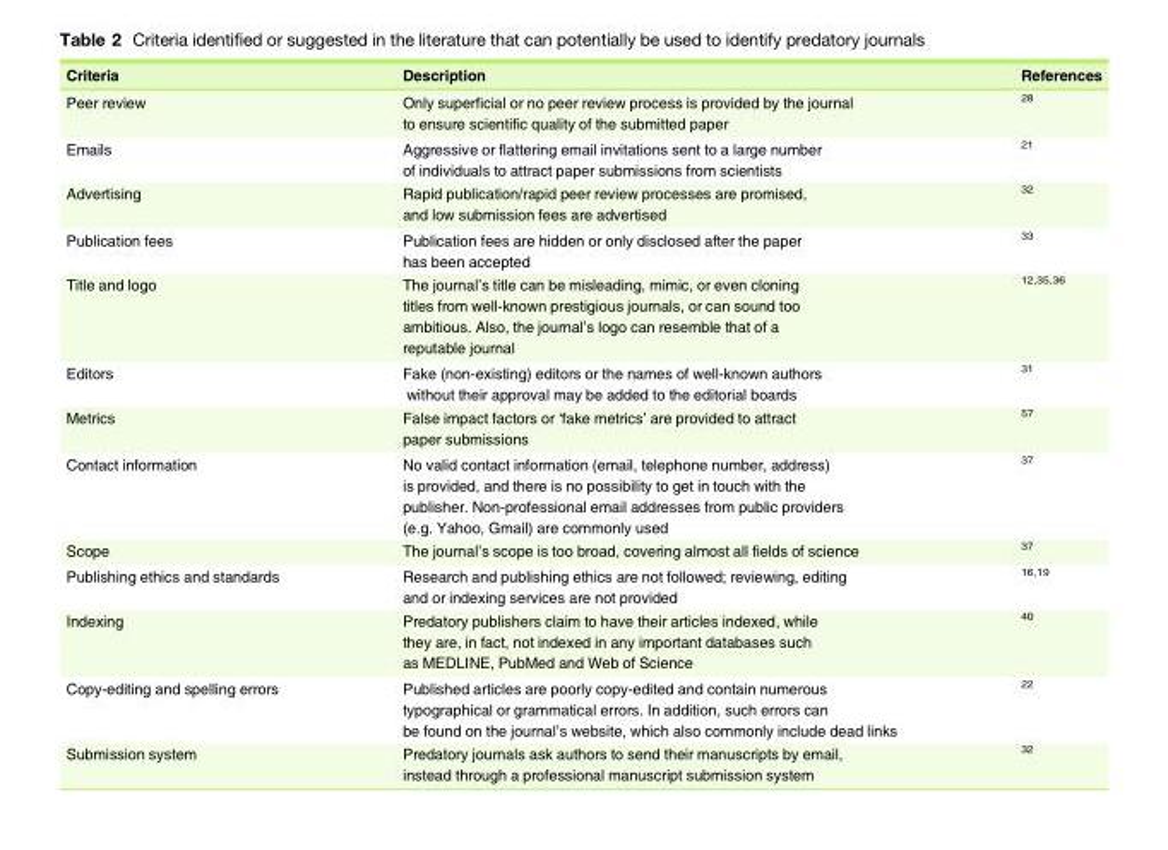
<table><thead><tr><td>Criteria</td><td>Description</td><td>References</td></tr></thead><tbody><tr><td>Peer review</td><td>Only superficial or no peer review process is provided by the journal to ensure scientific quality of the submitted paper</td><td>28</td></tr><tr><td>Emails</td><td>Aggressive or flattering email invitations sent to a large number of individuals to attract paper submissions from scientists</td><td>21</td></tr><tr><td>Advertising</td><td>Rapid publication/rapid peer review processes are promised, and low submission fees are advertised</td><td>32</td></tr><tr><td>Publication fees</td><td>Publication fees are hidden or only disclosed after the paper has been accepted</td><td>33</td></tr><tr><td>Title and logo</td><td>The journal’s title can be misleading, mimic, or even cloning titles from well-known prestigious journals, or can sound too ambitious. Also, the journal’s logo can resemble that of a reputable journal</td><td>12,35,36</td></tr><tr><td>Editors</td><td>Fake (non-existing) editors or the names of well-known authors without their approval may be added to the editorial boards</td><td>31</td></tr><tr><td>Metrics</td><td>False impact factors or ‘fake metrics’ are provided to attract paper submissions</td><td>57</td></tr><tr><td>Contact information</td><td>No valid contact information (email, telephone number, address) is provided, and there is no possibility to get in touch with the publisher. Non-professional email addresses from public providers (e.g. Yahoo, Gmail) are commonly used</td><td>37</td></tr><tr><td>Scope</td><td>The journal’s scope is too broad, covering almost all fields of science</td><td>37</td></tr><tr><td>Publishing ethics and standards</td><td>Research and publishing ethics are not followed; reviewing, editing and or indexing services are not provided</td><td>16,19</td></tr><tr><td>Indexing</td><td>Predatory publishers claim to have their articles indexed, while they are, in fact, not indexed in any important databases such as MEDLINE, PubMed and Web of Science</td><td>40</td></tr><tr><td>Copy-editing and spelling errors</td><td>Published articles are poorly copy-edited and contain numerous typographical or grammatical errors. In addition, such errors can be found on the journal’s website, which also commonly include dead links</td><td>22</td></tr><tr><td>Submission system</td><td>Predatory journals ask authors to send their manuscripts by email, instead through a professional manuscript submission system</td><td>32</td></tr></tbody></table>